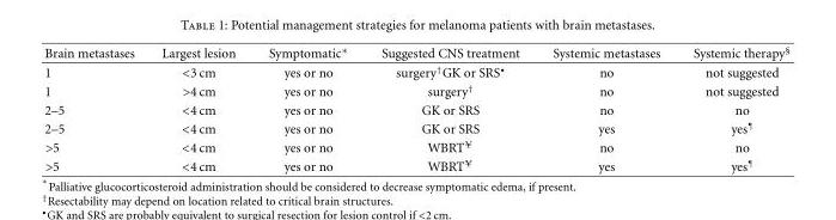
<table><thead><tr><td>Brain metastases</td><td>Largest lesion</td><td>Symptomatic∗</td><td>Suggested CNS treatment</td><td>Systemic metastases</td><td>Systemic therapy<sup>§</sup></td></tr></thead><tbody><tr><td>1</td><td>&lt;3 cm</td><td>yes or no</td><td>surgery<sup>†</sup>GK or SRS<sup>•</sup></td><td>no</td><td>not suggested</td></tr><tr><td>1</td><td>&gt;4 cm</td><td>yes or no</td><td>surgery<sup>†</sup></td><td>no</td><td>not suggested</td></tr><tr><td>2–5</td><td>&lt;4 cm</td><td>yes or no</td><td>GK or SRS</td><td>no</td><td>no</td></tr><tr><td>2–5</td><td>&lt;4 cm</td><td>yes or no</td><td>GK or SRS</td><td>yes</td><td>yes<sup>¶</sup></td></tr><tr><td>&gt;5</td><td>&lt;4 cm</td><td>yes or no</td><td>WBRT<sup>¥</sup></td><td>no</td><td>no</td></tr><tr><td>&gt;5</td><td>&lt;4 cm</td><td>yes or no</td><td>WBRT<sup>¥</sup></td><td>yes</td><td>yes<sup>¶</sup></td></tr></tbody></table>